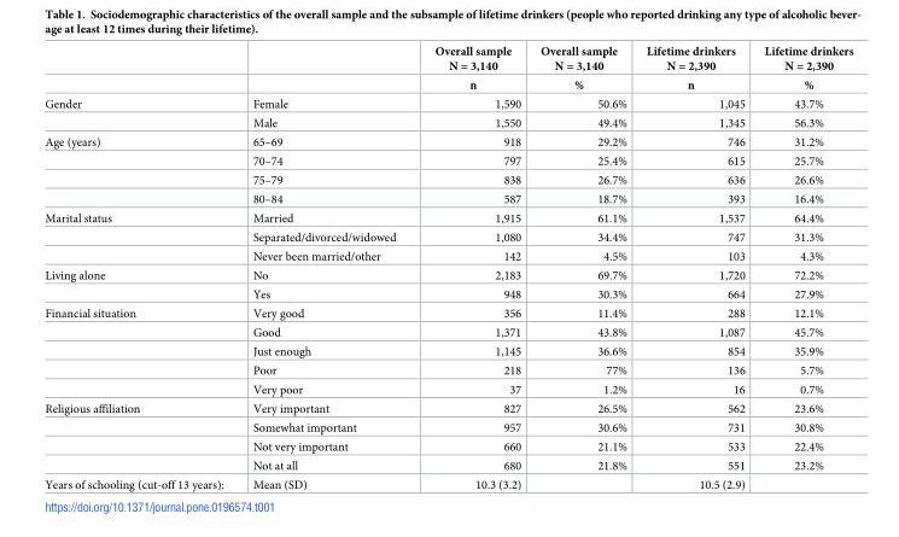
<table><thead><tr><td rowspan="2"></td><td rowspan="2"></td><td rowspan="2">Overall sample N = 3,140 n</td><td rowspan="2">Overall sample N = 3,140 %</td><td rowspan="2">Lifetime drinkers N = 2,390 n</td><td rowspan="2">Lifetime drinkers N = 2,390 %</td></tr><tr></tr></thead><tbody><tr><td rowspan="2">Gender</td><td>Female</td><td>1,590</td><td>50.6%</td><td>1,045</td><td>43.7%</td></tr><tr><td>Male</td><td>1,550</td><td>49.4%</td><td>1,345</td><td>56.3%</td></tr><tr><td rowspan="4">Age (years)</td><td>65–69</td><td>918</td><td>29.2%</td><td>746</td><td>31.2%</td></tr><tr><td>70–74</td><td>797</td><td>25.4%</td><td>615</td><td>25.7%</td></tr><tr><td>75–79</td><td>838</td><td>26.7%</td><td>636</td><td>26.6%</td></tr><tr><td>80–84</td><td>587</td><td>18.7%</td><td>393</td><td>16.4%</td></tr><tr><td rowspan="3">Marital status</td><td>Married</td><td>1,915</td><td>61.1%</td><td>1,537</td><td>64.4%</td></tr><tr><td>Separated/divorced/widowed</td><td>1,080</td><td>34.4%</td><td>747</td><td>31.3%</td></tr><tr><td>Never been married/other</td><td>142</td><td>4.5%</td><td>103</td><td>4.3%</td></tr><tr><td rowspan="2">Living alone</td><td>No</td><td>2,183</td><td>69.7%</td><td>1,720</td><td>72.2%</td></tr><tr><td>Yes</td><td>948</td><td>30.3%</td><td>664</td><td>27.9%</td></tr><tr><td rowspan="5">Financial situation</td><td>Very good</td><td>356</td><td>11.4%</td><td>288</td><td>12.1%</td></tr><tr><td>Good</td><td>1,371</td><td>43.8%</td><td>1,087</td><td>45.7%</td></tr><tr><td>Just enough</td><td>1,145</td><td>36.6%</td><td>854</td><td>35.9%</td></tr><tr><td>Poor</td><td>218</td><td>77%</td><td>136</td><td>5.7%</td></tr><tr><td>Very poor</td><td>37</td><td>1.2%</td><td>16</td><td>0.7%</td></tr><tr><td rowspan="4">Religious affiliation</td><td>Very important</td><td>827</td><td>26.5%</td><td>562</td><td>23.6%</td></tr><tr><td>Somewhat important</td><td>957</td><td>30.6%</td><td>731</td><td>30.8%</td></tr><tr><td>Not very important</td><td>660</td><td>21.1%</td><td>533</td><td>22.4%</td></tr><tr><td>Not at all</td><td>680</td><td>21.8%</td><td>551</td><td>23.2%</td></tr><tr><td>Years of schooling (cut-off 13 years):</td><td>Mean (SD)</td><td>10.3 (3.2)</td><td></td><td>10.5 (2.9)</td><td></td></tr></tbody></table>